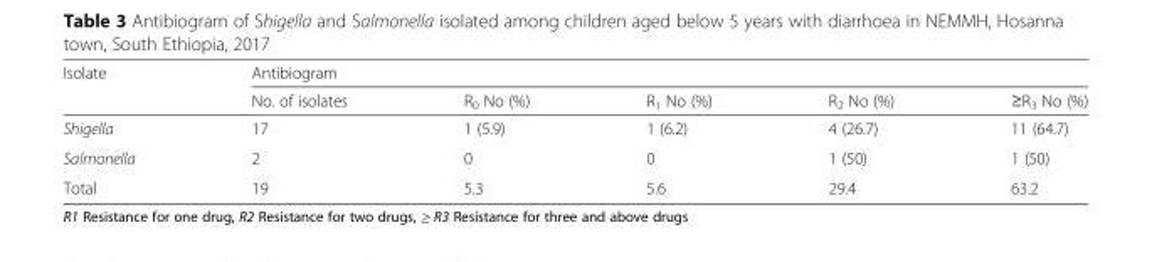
<table><thead><tr><td rowspan="2">Isolate</td><td colspan="5">Antibiogram</td></tr><tr><td>No. of isolates</td><td>R<sub>0</sub> No (%)</td><td>R<sub>1</sub> No (%)</td><td>R<sub>2</sub> No (%)</td><td>≥R<sub>3</sub> No (%)</td></tr></thead><tbody><tr><td>Shigella</td><td>17</td><td>1 (5.9)</td><td>1 (6.2)</td><td>4 (26.7)</td><td>11 (64.7)</td></tr><tr><td>Salmonella</td><td>2</td><td>0</td><td>0</td><td>1 (50)</td><td>1 (50)</td></tr><tr><td>Total</td><td>19</td><td>5.3</td><td>5.6</td><td>29.4</td><td>63.2</td></tr></tbody></table>